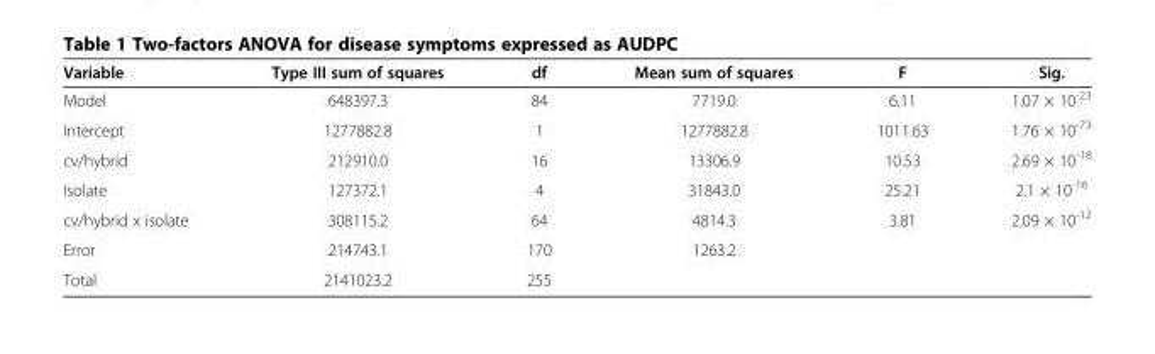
<table><thead><tr><td>Variable</td><td>Type III sum of squares</td><td>df</td><td>Mean sum of squares</td><td>F</td><td>Sig.</td></tr></thead><tbody><tr><td>Model</td><td>648397.3</td><td>84</td><td>7719.0</td><td>6.11</td><td>1.07 × 10<sup>-23</sup></td></tr><tr><td>Intercept</td><td>1277882.8</td><td>1</td><td>1277882.8</td><td>1011.63</td><td>1.76 × 10<sup>-73</sup></td></tr><tr><td>cv/hybrid</td><td>212910.0</td><td>16</td><td>13306.9</td><td>10.53</td><td>2.69 × 10<sup>-18</sup></td></tr><tr><td>Isolate</td><td>127372.1</td><td>4</td><td>31843.0</td><td>25.21</td><td>2.1 × 10<sup>-16</sup></td></tr><tr><td>cv/hybrid x isolate</td><td>308115.2</td><td>64</td><td>4814.3</td><td>3.81</td><td>2.09 × 10<sup>-12</sup></td></tr><tr><td>Error</td><td>214743.1</td><td>170</td><td>1263.2</td><td></td><td></td></tr><tr><td>Total</td><td>2141023.2</td><td>255</td><td></td><td></td><td></td></tr></tbody></table>